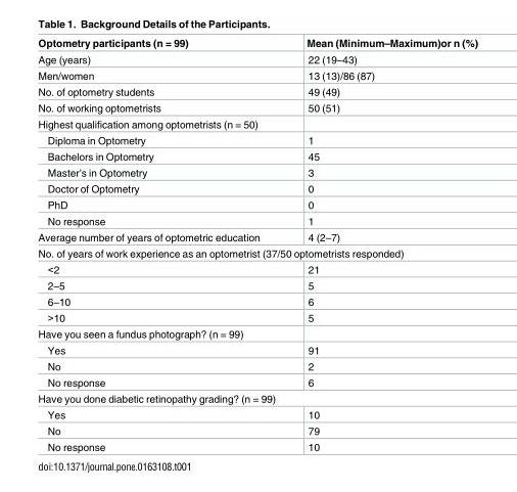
<table><thead><tr><td>Optometry participants (n = 99)</td><td>Mean (Minimum–Maximum)or n (%)</td></tr></thead><tbody><tr><td>Age (years)</td><td>22 (19–43)</td></tr><tr><td>Men/women</td><td>13 (13)/86 (87)</td></tr><tr><td>No. of optometry students</td><td>49 (49)</td></tr><tr><td>No. of working optometrists</td><td>50 (51)</td></tr><tr><td colspan="2">Highest qualification among optometrists (n = 50)</td></tr><tr><td>Diploma in Optometry</td><td>1</td></tr><tr><td>Bachelors in Optometry</td><td>45</td></tr><tr><td>Master’s in Optometry</td><td>3</td></tr><tr><td>Doctor of Optometry</td><td>0</td></tr><tr><td>PhD</td><td>0</td></tr><tr><td>No response</td><td>1</td></tr><tr><td>Average number of years of optometric education</td><td>4 (2–7)</td></tr><tr><td colspan="2">No. of years of work experience as an optometrist (37/50 optometrists responded)</td></tr><tr><td>&lt;2</td><td>21</td></tr><tr><td>2–5</td><td>5</td></tr><tr><td>6–10</td><td>6</td></tr><tr><td>&gt;10</td><td>5</td></tr><tr><td colspan="2">Have you seen a fundus photograph? (n = 99)</td></tr><tr><td>Yes</td><td>91</td></tr><tr><td>No</td><td>2</td></tr><tr><td>No response</td><td>6</td></tr><tr><td colspan="2">Have you done diabetic retinopathy grading? (n = 99)</td></tr><tr><td>Yes</td><td>10</td></tr><tr><td>No</td><td>79</td></tr><tr><td>No response</td><td>10</td></tr></tbody></table>